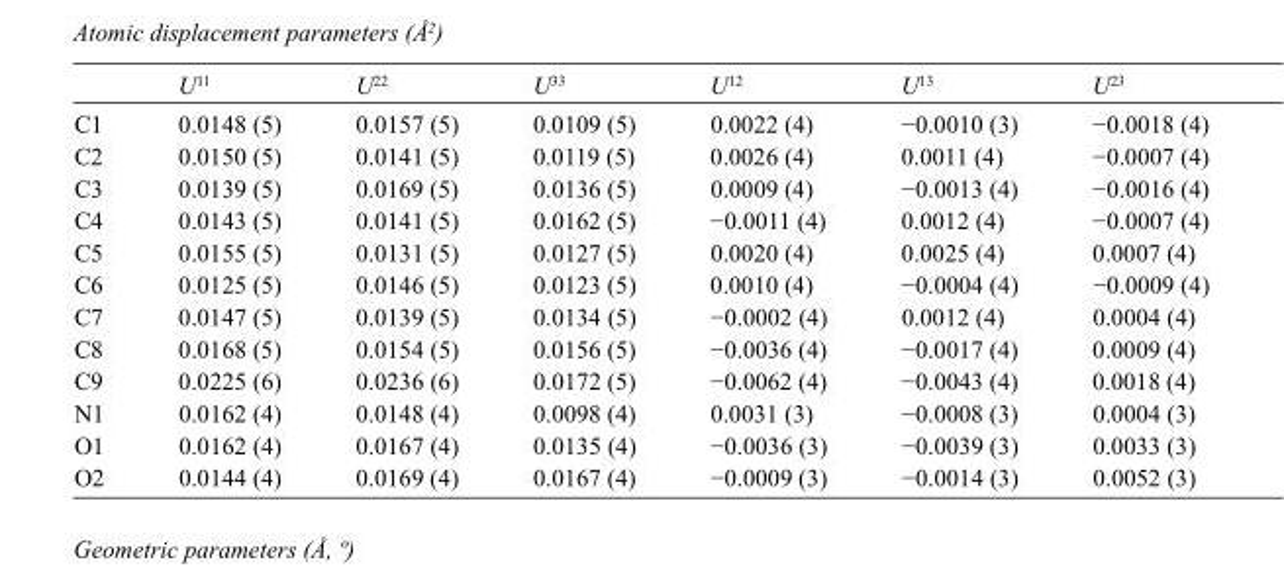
<table><thead><tr><td></td><td>U<sup>11</sup></td><td>U<sup>22</sup></td><td>U<sup>33</sup></td><td>U<sup>12</sup></td><td>U<sup>13</sup></td><td>U<sup>23</sup></td></tr></thead><tbody><tr><td>C1</td><td>0.0148 (5)</td><td>0.0157 (5)</td><td>0.0109 (5)</td><td>0.0022 (4)</td><td>−0.0010 (3)</td><td>−0.0018 (4)</td></tr><tr><td>C2</td><td>0.0150 (5)</td><td>0.0141 (5)</td><td>0.0119 (5)</td><td>0.0026 (4)</td><td>0.0011 (4)</td><td>−0.0007 (4)</td></tr><tr><td>C3</td><td>0.0139 (5)</td><td>0.0169 (5)</td><td>0.0136 (5)</td><td>0.0009 (4)</td><td>−0.0013 (4)</td><td>−0.0016 (4)</td></tr><tr><td>C4</td><td>0.0143 (5)</td><td>0.0141 (5)</td><td>0.0162 (5)</td><td>−0.0011 (4)</td><td>0.0012 (4)</td><td>−0.0007 (4)</td></tr><tr><td>C5</td><td>0.0155 (5)</td><td>0.0131 (5)</td><td>0.0127 (5)</td><td>0.0020 (4)</td><td>0.0025 (4)</td><td>0.0007 (4)</td></tr><tr><td>C6</td><td>0.0125 (5)</td><td>0.0146 (5)</td><td>0.0123 (5)</td><td>0.0010 (4)</td><td>−0.0004 (4)</td><td>−0.0009 (4)</td></tr><tr><td>C7</td><td>0.0147 (5)</td><td>0.0139 (5)</td><td>0.0134 (5)</td><td>−0.0002 (4)</td><td>0.0012 (4)</td><td>0.0004 (4)</td></tr><tr><td>C8</td><td>0.0168 (5)</td><td>0.0154 (5)</td><td>0.0156 (5)</td><td>−0.0036 (4)</td><td>−0.0017 (4)</td><td>0.0009 (4)</td></tr><tr><td>C9</td><td>0.0225 (6)</td><td>0.0236 (6)</td><td>0.0172 (5)</td><td>−0.0062 (4)</td><td>−0.0043 (4)</td><td>0.0018 (4)</td></tr><tr><td>N1</td><td>0.0162 (4)</td><td>0.0148 (4)</td><td>0.0098 (4)</td><td>0.0031 (3)</td><td>−0.0008 (3)</td><td>0.0004 (3)</td></tr><tr><td>O1</td><td>0.0162 (4)</td><td>0.0167 (4)</td><td>0.0135 (4)</td><td>−0.0036 (3)</td><td>−0.0039 (3)</td><td>0.0033 (3)</td></tr><tr><td>O2</td><td>0.0144 (4)</td><td>0.0169 (4)</td><td>0.0167 (4)</td><td>−0.0009 (3)</td><td>−0.0014 (3)</td><td>0.0052 (3)</td></tr></tbody></table>